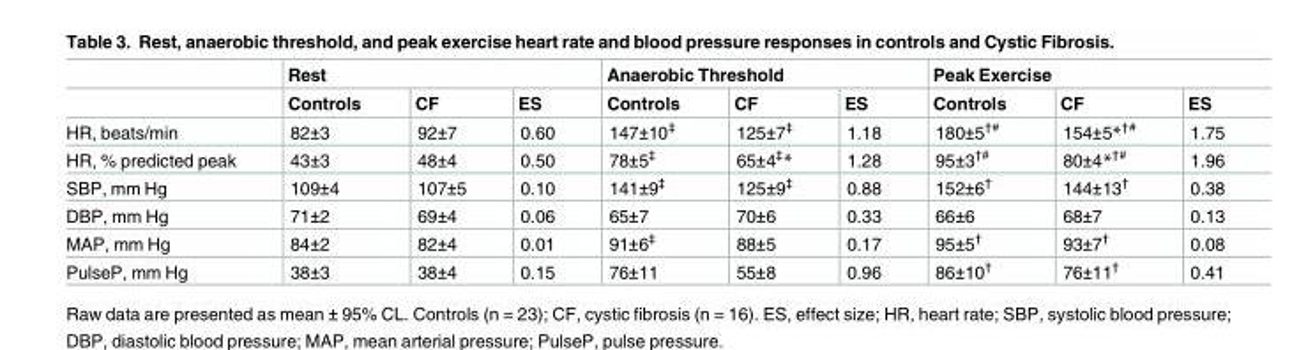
<table><thead><tr><td rowspan="2"></td><td colspan="3">Rest</td><td colspan="3">Anaerobic Threshold</td><td colspan="3">Peak Exercise</td></tr><tr><td>Controls</td><td>CF</td><td>ES</td><td>Controls</td><td>CF</td><td>ES</td><td>Controls</td><td>CF</td><td>ES</td></tr></thead><tbody><tr><td>HR, beats/min</td><td>82±3</td><td>92±7</td><td>0.60</td><td>147±10<sup>‡</sup></td><td>125±7<sup>‡</sup></td><td>1.18</td><td>180±5<sup>†#</sup></td><td>154±5*<sup>†#</sup></td><td>1.75</td></tr><tr><td>HR, % predicted peak</td><td>43±3</td><td>48±4</td><td>0.50</td><td>78±5<sup>‡</sup></td><td>65±4<sup>‡</sup>*</td><td>1.28</td><td>95±3<sup>†#</sup></td><td>80±4*<sup>†#</sup></td><td>1.96</td></tr><tr><td>SBP, mm Hg</td><td>109±4</td><td>107±5</td><td>0.10</td><td>141±9<sup>‡</sup></td><td>125±9<sup>‡</sup></td><td>0.88</td><td>152±6<sup>†</sup></td><td>144±13<sup>†</sup></td><td>0.38</td></tr><tr><td>DBP, mm Hg</td><td>71±2</td><td>69±4</td><td>0.06</td><td>65±7</td><td>70±6</td><td>0.33</td><td>66±6</td><td>68±7</td><td>0.13</td></tr><tr><td>MAP, mm Hg</td><td>84±2</td><td>82±4</td><td>0.01</td><td>91±6<sup>‡</sup></td><td>88±5</td><td>0.17</td><td>95±5<sup>†</sup></td><td>93±7<sup>†</sup></td><td>0.08</td></tr><tr><td>PulseP, mm Hg</td><td>38±3</td><td>38±4</td><td>0.15</td><td>76±11</td><td>55±8</td><td>0.96</td><td>86±10<sup>†</sup></td><td>76±11<sup>†</sup></td><td>0.41</td></tr></tbody></table>